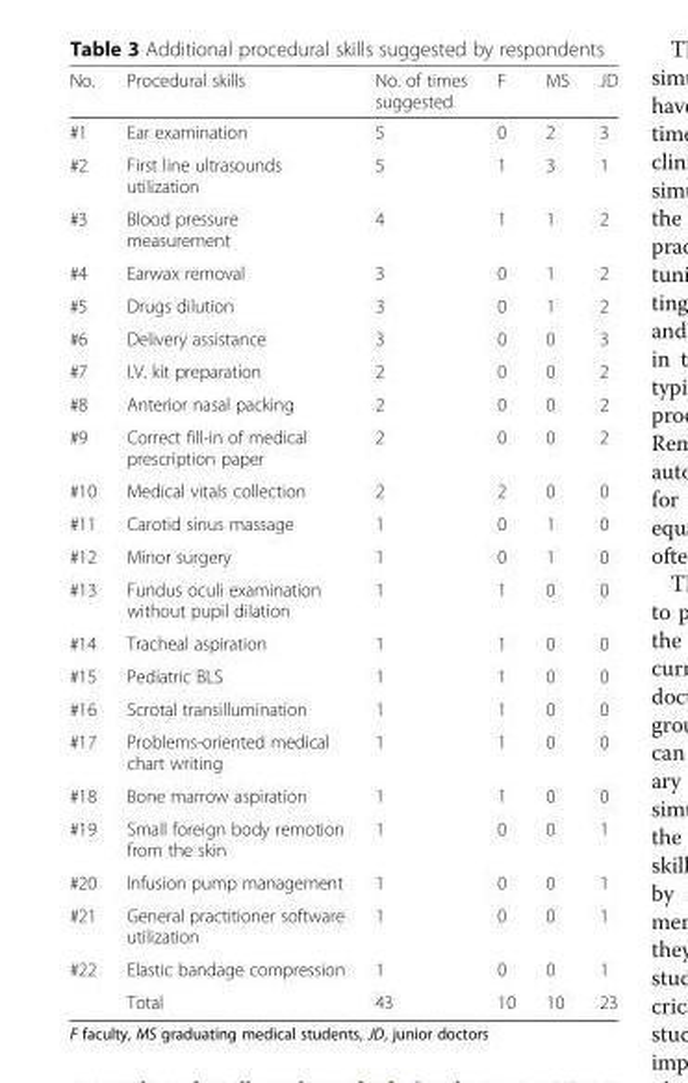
<table><thead><tr><td>No.</td><td>Procedural skills</td><td>No. of times suggested</td><td>F</td><td>MS</td><td>JD</td></tr></thead><tbody><tr><td>#1</td><td>Ear examination</td><td>5</td><td>0</td><td>2</td><td>3</td></tr><tr><td>#2</td><td>First line ultrasounds utilization</td><td>5</td><td>1</td><td>3</td><td>1</td></tr><tr><td>#3</td><td>Blood pressure measurement</td><td>4</td><td>1</td><td>1</td><td>2</td></tr><tr><td>#4</td><td>Earwax removal</td><td>3</td><td>0</td><td>1</td><td>2</td></tr><tr><td>#5</td><td>Drugs dilution</td><td>3</td><td>0</td><td>1</td><td>2</td></tr><tr><td>#6</td><td>Delivery assistance</td><td>3</td><td>0</td><td>0</td><td>3</td></tr><tr><td>#7</td><td>I.V. kit preparation</td><td>2</td><td>0</td><td>0</td><td>2</td></tr><tr><td>#8</td><td>Anterior nasal packing</td><td>2</td><td>0</td><td>0</td><td>2</td></tr><tr><td>#9</td><td>Correct fill-in of medical prescription paper</td><td>2</td><td>0</td><td>0</td><td>2</td></tr><tr><td>#10</td><td>Medical vitals collection</td><td>2</td><td>2</td><td>0</td><td>0</td></tr><tr><td>#11</td><td>Carotid sinus massage</td><td>1</td><td>0</td><td>1</td><td>0</td></tr><tr><td>#12</td><td>Minor surgery</td><td>1</td><td>0</td><td>1</td><td>0</td></tr><tr><td>#13</td><td>Fundus oculi examination without pupil dilation</td><td>1</td><td>1</td><td>0</td><td>0</td></tr><tr><td>#14</td><td>Tracheal aspiration</td><td>1</td><td>1</td><td>0</td><td>0</td></tr><tr><td>#15</td><td>Pediatric BLS</td><td>1</td><td>1</td><td>0</td><td>0</td></tr><tr><td>#16</td><td>Scrotal transillumination</td><td>1</td><td>1</td><td>0</td><td>0</td></tr><tr><td>#17</td><td>Problems-oriented medical chart writing</td><td>1</td><td>1</td><td>0</td><td>0</td></tr><tr><td>#18</td><td>Bone marrow aspiration</td><td>1</td><td>1</td><td>0</td><td>0</td></tr><tr><td>#19</td><td>Small foreign body remotion from the skin</td><td>1</td><td>0</td><td>0</td><td>1</td></tr><tr><td>#20</td><td>Infusion pump management</td><td>1</td><td>0</td><td>0</td><td>1</td></tr><tr><td>#21</td><td>General practitioner software utilization</td><td>1</td><td>0</td><td>0</td><td>1</td></tr><tr><td rowspan="2">#22</td><td>Elastic bandage compression</td><td>1</td><td>0</td><td>0</td><td>1</td></tr><tr><td>Total</td><td>43</td><td>10</td><td>10</td><td>23</td></tr></tbody></table>